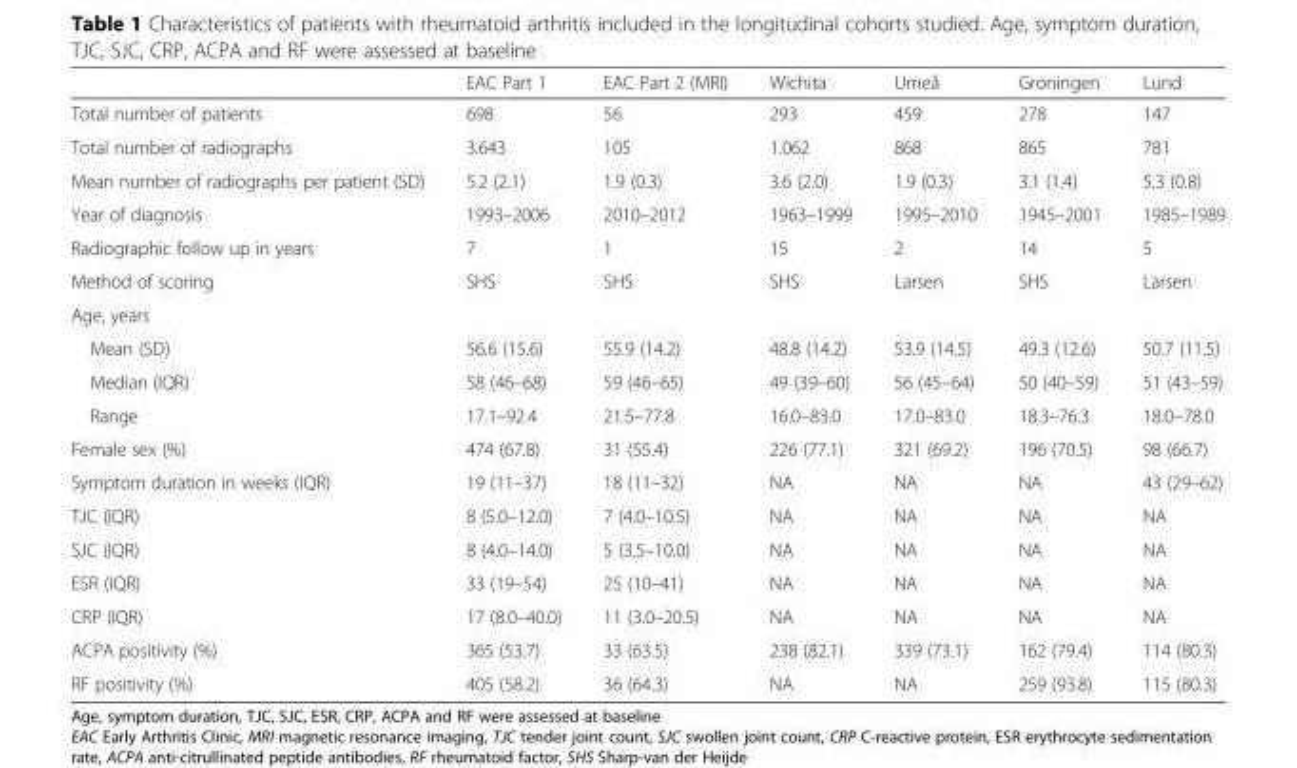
<table><thead><tr><td></td><td>EAC Part 1</td><td>EAC Part 2 (MRI)</td><td>Wichita</td><td>Umeå</td><td>Groningen</td><td>Lund</td></tr></thead><tbody><tr><td>Total number of patients</td><td>698</td><td>56</td><td>293</td><td>459</td><td>278</td><td>147</td></tr><tr><td>Total number of radiographs</td><td>3.643</td><td>105</td><td>1.062</td><td>868</td><td>865</td><td>781</td></tr><tr><td>Mean number of radiographs per patient (SD)</td><td>5.2 (2.1)</td><td>1.9 (0.3)</td><td>3.6 (2.0)</td><td>1.9 (0.3)</td><td>3.1 (1.4)</td><td>5.3 (0.8)</td></tr><tr><td>Year of diagnosis</td><td>1993–2006</td><td>2010–2012</td><td>1963–1999</td><td>1995–2010</td><td>1945–2001</td><td>1985–1989</td></tr><tr><td>Radiographic follow up in years</td><td>7</td><td>1</td><td>15</td><td>2</td><td>14</td><td>5</td></tr><tr><td>Method of scoring</td><td>SHS</td><td>SHS</td><td>SHS</td><td>Larsen</td><td>SHS</td><td>Larsen</td></tr><tr><td colspan="7">Age, years</td></tr><tr><td>Mean (SD)</td><td>56.6 (15.6)</td><td>55.9 (14.2)</td><td>48.8 (14.2)</td><td>53.9 (14.5)</td><td>49.3 (12.6)</td><td>50.7 (11.5)</td></tr><tr><td>Median (IQR)</td><td>58 (46–68)</td><td>59 (46–65)</td><td>49 (39–60)</td><td>56 (45–64)</td><td>50 (40–59)</td><td>51 (43–59)</td></tr><tr><td>Range</td><td>17.1–92.4</td><td>21.5–77.8</td><td>16.0–83.0</td><td>17.0–83.0</td><td>18.3–76.3</td><td>18.0–78.0</td></tr><tr><td>Female sex (%)</td><td>474 (67.8)</td><td>31 (55.4)</td><td>226 (77.1)</td><td>321 (69.2)</td><td>196 (70.5)</td><td>98 (66.7)</td></tr><tr><td>Symptom duration in weeks (IQR)</td><td>19 (11–37)</td><td>18 (11–32)</td><td>NA</td><td>NA</td><td>NA</td><td>43 (29–62)</td></tr><tr><td>TJC (IQR)</td><td>8 (5.0–12.0)</td><td>7 (4.0–10.5)</td><td>NA</td><td>NA</td><td>NA</td><td>NA</td></tr><tr><td>SJC (IQR)</td><td>8 (4.0–14.0)</td><td>5 (3.5–10.0)</td><td>NA</td><td>NA</td><td>NA</td><td>NA</td></tr><tr><td>ESR (IQR)</td><td>33 (19–54)</td><td>25 (10–41)</td><td>NA</td><td>NA</td><td>NA</td><td>NA</td></tr><tr><td>CRP (IQR)</td><td>17 (8.0–40.0)</td><td>11 (3.0–20.5)</td><td>NA</td><td>NA</td><td>NA</td><td>NA</td></tr><tr><td>ACPA positivity (%)</td><td>365 (53.7)</td><td>33 (63.5)</td><td>238 (82.1)</td><td>339 (73.1)</td><td>162 (79.4)</td><td>114 (80.3)</td></tr><tr><td>RF positivity (%)</td><td>405 (58.2)</td><td>36 (64.3)</td><td>NA</td><td>NA</td><td>259 (93.8)</td><td>115 (80.3)</td></tr></tbody></table>